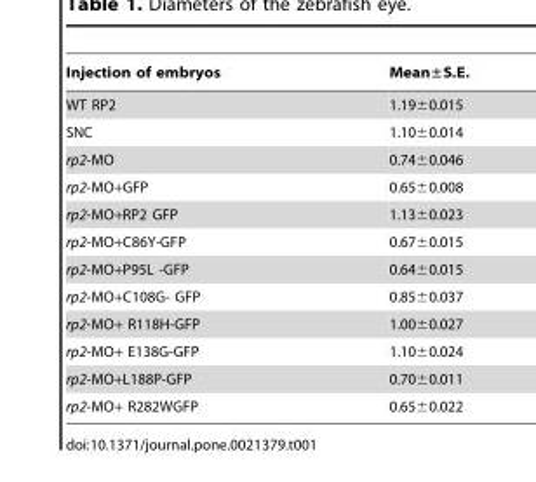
<table><thead><tr><td>Injection of embryos</td><td>Mean±S.E.</td></tr></thead><tbody><tr><td>WT RP2</td><td>1.19±0.015</td></tr><tr><td>SNC</td><td>1.10±0.014</td></tr><tr><td>rp2-MO</td><td>0.74±0.046</td></tr><tr><td>rp2-MO+GFP</td><td>0.65±0.008</td></tr><tr><td>rp2-MO+RP2 GFP</td><td>1.13±0.023</td></tr><tr><td>rp2-MO+C86Y-GFP</td><td>0.67±0.015</td></tr><tr><td>rp2-MO+P95L -GFP</td><td>0.64±0.015</td></tr><tr><td>rp2-MO+C108G- GFP</td><td>0.85±0.037</td></tr><tr><td>rp2-MO+ R118H-GFP</td><td>1.00±0.027</td></tr><tr><td>rp2-MO+ E138G-GFP</td><td>1.10±0.024</td></tr><tr><td>rp2-MO+L188P-GFP</td><td>0.70±0.011</td></tr><tr><td>rp2-MO+ R282WGFP</td><td>0.65±0.022</td></tr></tbody></table>